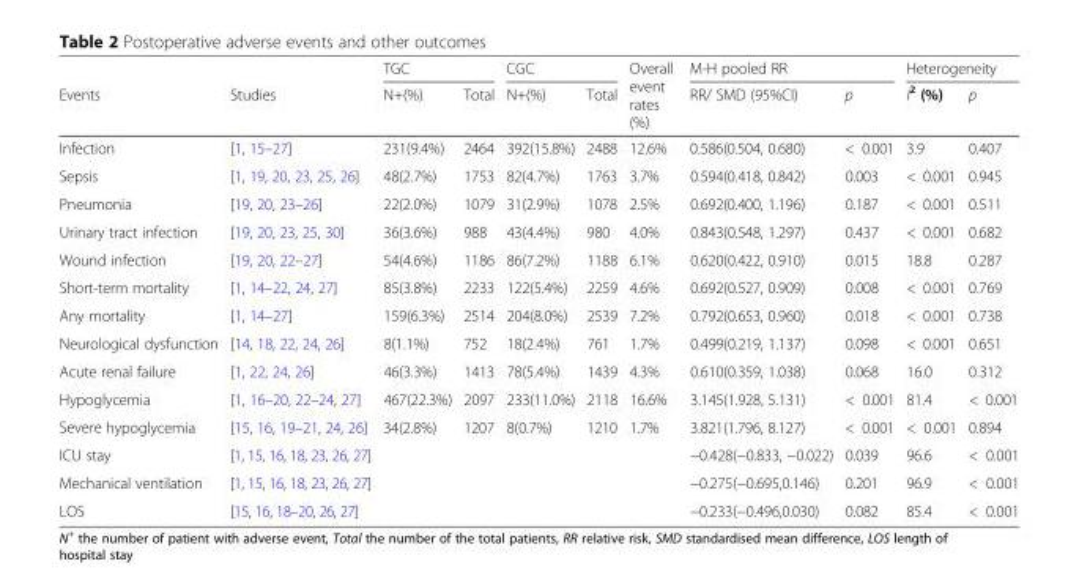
<table><thead><tr><td rowspan="2">Events</td><td rowspan="2">Studies</td><td colspan="2">TGC</td><td colspan="2">CGC</td><td rowspan="2">Overall event rates (%)</td><td colspan="2">M-H pooled RR</td><td colspan="2">Heterogeneity</td></tr><tr><td>N+(%)</td><td>Total</td><td>N+(%)</td><td>Total</td><td>RR/ SMD (95%CI)</td><td>p</td><td>I<sup>2</sup> (%)</td><td>p</td></tr></thead><tbody><tr><td>Infection</td><td>[1, 15–27]</td><td>231(9.4%)</td><td>2464</td><td>392(15.8%)</td><td>2488</td><td>12.6%</td><td>0.586(0.504, 0.680)</td><td>&lt; 0.001</td><td>3.9</td><td>0.407</td></tr><tr><td>Sepsis</td><td>[1, 19, 20, 23, 25, 26]</td><td>48(2.7%)</td><td>1753</td><td>82(4.7%)</td><td>1763</td><td>3.7%</td><td>0.594(0.418, 0.842)</td><td>0.003</td><td>&lt; 0.001</td><td>0.945</td></tr><tr><td>Pneumonia</td><td>[19, 20, 23–26]</td><td>22(2.0%)</td><td>1079</td><td>31(2.9%)</td><td>1078</td><td>2.5%</td><td>0.692(0.400, 1.196)</td><td>0.187</td><td>&lt; 0.001</td><td>0.511</td></tr><tr><td>Urinary tract infection</td><td>[19, 20, 23, 25, 30]</td><td>36(3.6%)</td><td>988</td><td>43(4.4%)</td><td>980</td><td>4.0%</td><td>0.843(0.548, 1.297)</td><td>0.437</td><td>&lt; 0.001</td><td>0.682</td></tr><tr><td>Wound infection</td><td>[19, 20, 22–27]</td><td>54(4.6%)</td><td>1186</td><td>86(7.2%)</td><td>1188</td><td>6.1%</td><td>0.620(0.422, 0.910)</td><td>0.015</td><td>18.8</td><td>0.287</td></tr><tr><td>Short-term mortality</td><td>[1, 14–22, 24, 27]</td><td>85(3.8%)</td><td>2233</td><td>122(5.4%)</td><td>2259</td><td>4.6%</td><td>0.692(0.527, 0.909)</td><td>0.008</td><td>&lt; 0.001</td><td>0.769</td></tr><tr><td>Any mortality</td><td>[1, 14–27]</td><td>159(6.3%)</td><td>2514</td><td>204(8.0%)</td><td>2539</td><td>7.2%</td><td>0.792(0.653, 0.960)</td><td>0.018</td><td>&lt; 0.001</td><td>0.738</td></tr><tr><td>Neurological dysfunction</td><td>[14, 18, 22, 24, 26]</td><td>8(1.1%)</td><td>752</td><td>18(2.4%)</td><td>761</td><td>1.7%</td><td>0.499(0.219, 1.137)</td><td>0.098</td><td>&lt; 0.001</td><td>0.651</td></tr><tr><td>Acute renal failure</td><td>[1, 22, 24, 26]</td><td>46(3.3%)</td><td>1413</td><td>78(5.4%)</td><td>1439</td><td>4.3%</td><td>0.610(0.359, 1.038)</td><td>0.068</td><td>16.0</td><td>0.312</td></tr><tr><td>Hypoglycemia</td><td>[1, 16–20, 22–24, 27]</td><td>467(22.3%)</td><td>2097</td><td>233(11.0%)</td><td>2118</td><td>16.6%</td><td>3.145(1.928, 5.131)</td><td>&lt; 0.001</td><td>81.4</td><td>&lt; 0.001</td></tr><tr><td>Severe hypoglycemia</td><td>[15, 16, 19–21, 24, 26]</td><td>34(2.8%)</td><td>1207</td><td>8(0.7%)</td><td>1210</td><td>1.7%</td><td>3.821(1.796, 8.127)</td><td>&lt; 0.001</td><td>&lt; 0.001</td><td>0.894</td></tr><tr><td>ICU stay</td><td>[1, 15, 16, 18, 23, 26, 27]</td><td></td><td></td><td></td><td></td><td></td><td>−0.428(−0.833, −0.022)</td><td>0.039</td><td>96.6</td><td>&lt; 0.001</td></tr><tr><td>Mechanical ventilation</td><td>[1, 15, 16, 18, 23, 26, 27]</td><td></td><td></td><td></td><td></td><td></td><td>−0.275(−0.695,0.146)</td><td>0.201</td><td>96.9</td><td>&lt; 0.001</td></tr><tr><td>LOS</td><td>[15, 16, 18–20, 26, 27]</td><td></td><td></td><td></td><td></td><td></td><td>−0.233(−0.496,0.030)</td><td>0.082</td><td>85.4</td><td>&lt; 0.001</td></tr></tbody></table>